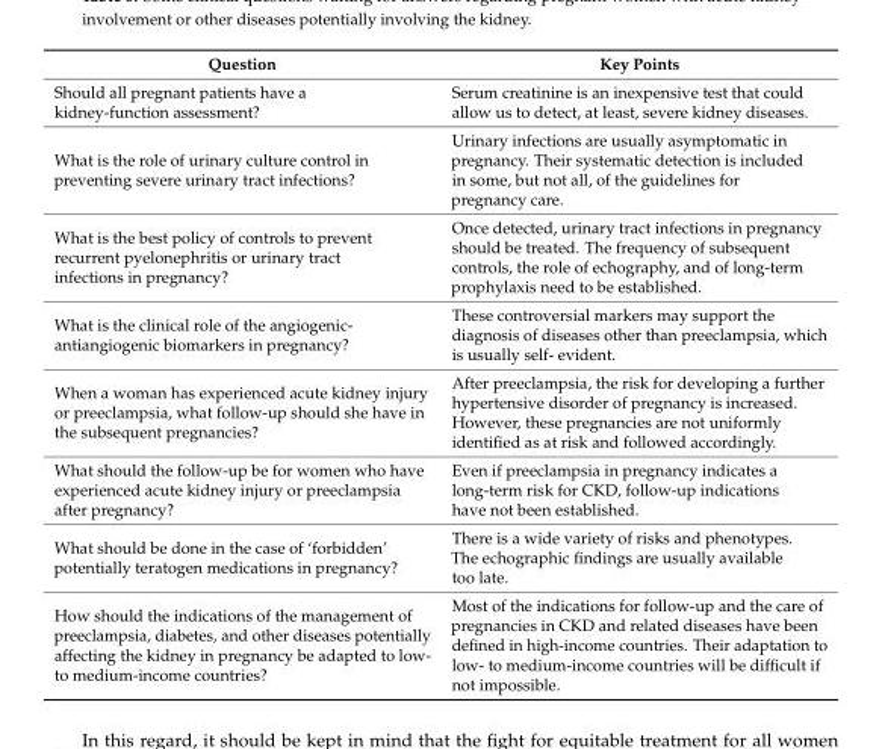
<table><thead><tr><td>Question</td><td>Key Points</td></tr></thead><tbody><tr><td>Should all pregnant patients have a kidney-function assessment?</td><td>Serum creatinine is an inexpensive test that could allow us to detect, at least, severe kidney diseases.</td></tr><tr><td>What is the role of urinary culture control in preventing severe urinary tract infections?</td><td>Urinary infections are usually asymptomatic in pregnancy. Their systematic detection is included in some, but not all, of the guidelines for pregnancy care.</td></tr><tr><td>What is the best policy of controls to prevent recurrent pyelonephritis or urinary tract infections in pregnancy?</td><td>Once detected, urinary tract infections in pregnancy should be treated. The frequency of subsequent controls, the role of echography, and of long-term prophylaxis need to be established.</td></tr><tr><td>What is the clinical role of the angiogenic- antiangiogenic biomarkers in pregnancy?</td><td>These controversial markers may support the diagnosis of diseases other than preeclampsia, which is usually self- evident.</td></tr><tr><td>When a woman has experienced acute kidney injury or preeclampsia, what follow-up should she have in the subsequent pregnancies?</td><td>After preeclampsia, the risk for developing a further hypertensive disorder of pregnancy is increased. However, these pregnancies are not uniformly identified as at risk and followed accordingly.</td></tr><tr><td>What should the follow-up be for women who have experienced acute kidney injury or preeclampsia after pregnancy?</td><td>Even if preeclampsia in pregnancy indicates a long-term risk for CKD, follow-up indications have not been established.</td></tr><tr><td>What should be done in the case of ‘forbidden’ potentially teratogen medications in pregnancy?</td><td>There is a wide variety of risks and phenotypes. The echographic findings are usually available too late.</td></tr><tr><td>How should the indications of the management of preeclampsia, diabetes, and other diseases potentially affecting the kidney in pregnancy be adapted to low- to medium-income countries?</td><td>Most of the indications for follow-up and the care of pregnancies in CKD and related diseases have been defined in high-income countries. Their adaptation to low- to medium-income countries will be difficult if not impossible.</td></tr></tbody></table>